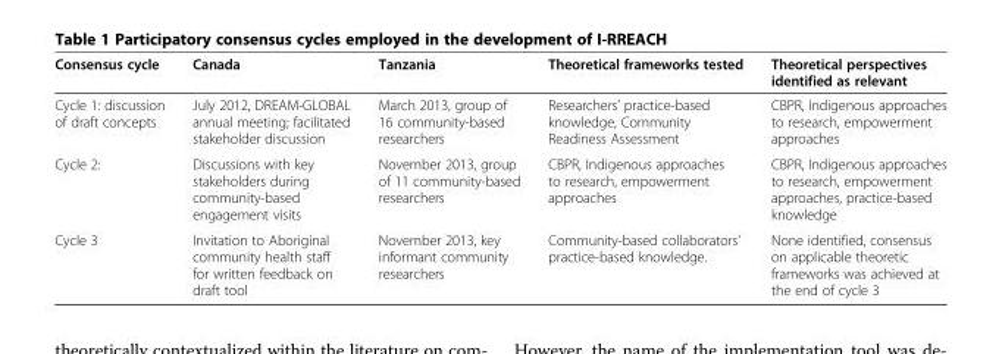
<table><thead><tr><td>Consensus cycle</td><td>Canada</td><td>Tanzania</td><td>Theoretical frameworks tested</td><td>Theoretical perspectives identified as relevant</td></tr></thead><tbody><tr><td>Cycle 1: discussion of draft concepts</td><td>July 2012, DREAM-GLOBAL annual meeting; facilitated stakeholder discussion</td><td>March 2013, group of 16 community-based researchers</td><td>Researchers’ practice-based knowledge, Community Readiness Assessment</td><td>CBPR, Indigenous approaches to research, empowerment approaches</td></tr><tr><td>Cycle 2:</td><td>Discussions with key stakeholders during community-based engagement visits</td><td>November 2013, group of 11 community-based researchers</td><td>CBPR, Indigenous approaches to research, empowerment approaches</td><td>CBPR, Indigenous approaches to research, empowerment approaches, practice-based knowledge</td></tr><tr><td>Cycle 3</td><td>Invitation to Aboriginal community health staff for written feedback on draft tool</td><td>November 2013, key informant community researchers</td><td>Community-based collaborators’ practice-based knowledge.</td><td>None identified, consensus on applicable theoretic frameworks was achieved at the end of cycle 3</td></tr></tbody></table>